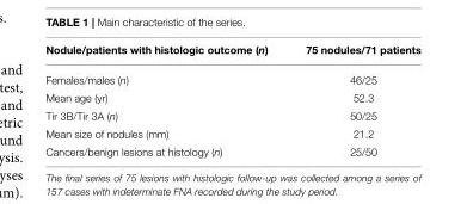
<table><thead><tr><td>Nodule/patients with histologic outcome (n)</td><td>75 nodules/71 patients</td></tr></thead><tbody><tr><td>Females/males (n)</td><td>46/25</td></tr><tr><td>Mean age (yr)</td><td>52.3</td></tr><tr><td>Tir 3B/Tir 3A (n)</td><td>50/25</td></tr><tr><td>Mean size of nodules (mm)</td><td>21.2</td></tr><tr><td>Cancers/benign lesions at histology (n)</td><td>25/50</td></tr></tbody></table>